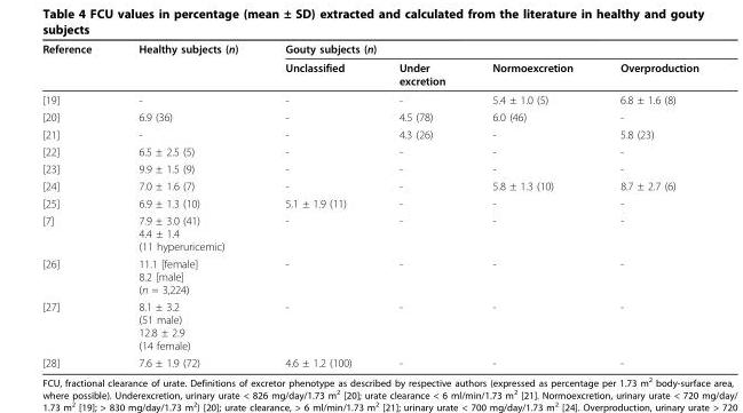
<table><thead><tr><td rowspan="2">Reference</td><td rowspan="2">Healthy subjects (n)</td><td colspan="4">Gouty subjects (n)</td></tr><tr><td>Unclassified</td><td>Under excretion</td><td>Normoexcretion</td><td>Overproduction</td></tr></thead><tbody><tr><td>[19]</td><td>-</td><td>-</td><td>-</td><td>5.4 ± 1.0 (5)</td><td>6.8 ± 1.6 (8)</td></tr><tr><td>[20]</td><td>6.9 (36)</td><td>-</td><td>4.5 (78)</td><td>6.0 (46)</td><td>-</td></tr><tr><td>[21]</td><td>-</td><td>-</td><td>4.3 (26)</td><td>-</td><td>5.8 (23)</td></tr><tr><td>[22]</td><td>6.5 ± 2.5 (5)</td><td>-</td><td>-</td><td>-</td><td>-</td></tr><tr><td>[23]</td><td>9.9 ± 1.5 (9)</td><td>-</td><td>-</td><td>-</td><td>-</td></tr><tr><td>[24]</td><td>7.0 ± 1.6 (7)</td><td>-</td><td>-</td><td>5.8 ± 1.3 (10)</td><td>8.7 ± 2.7 (6)</td></tr><tr><td>[25]</td><td>6.9 ± 1.3 (10)</td><td>5.1 ± 1.9 (11)</td><td>-</td><td>-</td><td>-</td></tr><tr><td>[7]</td><td>7.9 ± 3.0 (41) 4.4 ± 1.4 (11 hyperuricemic)</td><td>-</td><td>-</td><td>-</td><td>-</td></tr><tr><td>[26]</td><td>11.1 [female] 8.2 [male] (n = 3,224)</td><td>-</td><td>-</td><td>-</td><td>-</td></tr><tr><td>[27]</td><td>8.1 ± 3.2 (51 male) 12.8 ± 2.9 (14 female)</td><td>-</td><td>-</td><td>-</td><td>-</td></tr><tr><td>[28]</td><td>7.6 ± 1.9 (72)</td><td>4.6 ± 1.2 (100)</td><td>-</td><td>-</td><td>-</td></tr></tbody></table>